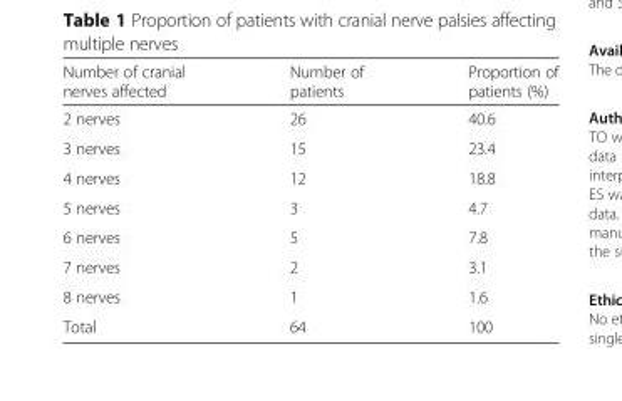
<table><thead><tr><td>Number of cranial nerves affected</td><td>Number of patients</td><td>Proportion of patients (%)</td></tr></thead><tbody><tr><td>2 nerves</td><td>26</td><td>40.6</td></tr><tr><td>3 nerves</td><td>15</td><td>23.4</td></tr><tr><td>4 nerves</td><td>12</td><td>18.8</td></tr><tr><td>5 nerves</td><td>3</td><td>4.7</td></tr><tr><td>6 nerves</td><td>5</td><td>7.8</td></tr><tr><td>7 nerves</td><td>2</td><td>3.1</td></tr><tr><td>8 nerves</td><td>1</td><td>1.6</td></tr><tr><td>Total</td><td>64</td><td>100</td></tr></tbody></table>